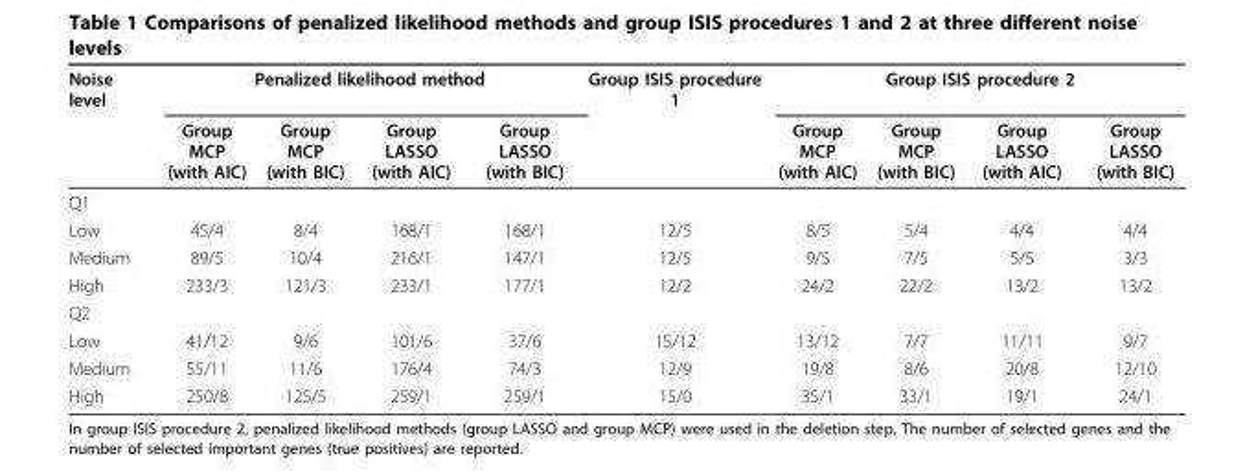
<table><thead><tr><td rowspan="2">Noise level</td><td colspan="4">Penalized likelihood method</td><td rowspan="2">Group ISIS procedure 1</td><td colspan="4">Group ISIS procedure 2</td></tr><tr><td>Group MCP (with AIC)</td><td>Group MCP (with BIC)</td><td>Group LASSO (with AIC)</td><td>Group LASSO (with BIC)</td><td>Group MCP (with AIC)</td><td>Group MCP (with BIC)</td><td>Group LASSO (with AIC)</td><td>Group LASSO (with BIC)</td></tr></thead><tbody><tr><td colspan="10">Q1</td></tr><tr><td>Low</td><td>45/4</td><td>8/4</td><td>168/1</td><td>168/1</td><td>12/5</td><td>8/5</td><td>5/4</td><td>4/4</td><td>4/4</td></tr><tr><td>Medium</td><td>89/5</td><td>10/4</td><td>216/1</td><td>147/1</td><td>12/5</td><td>9/5</td><td>7/5</td><td>5/5</td><td>3/3</td></tr><tr><td>High</td><td>233/3</td><td>121/3</td><td>233/1</td><td>177/1</td><td>12/2</td><td>24/2</td><td>22/2</td><td>13/2</td><td>13/2</td></tr><tr><td colspan="10">Q2</td></tr><tr><td>Low</td><td>41/12</td><td>9/6</td><td>101/6</td><td>37/6</td><td>15/12</td><td>13/12</td><td>7/7</td><td>11/11</td><td>9/7</td></tr><tr><td>Medium</td><td>55/11</td><td>11/6</td><td>176/4</td><td>74/3</td><td>12/9</td><td>19/8</td><td>8/6</td><td>20/8</td><td>12/10</td></tr><tr><td>High</td><td>250/8</td><td>125/5</td><td>259/1</td><td>259/1</td><td>15/0</td><td>35/1</td><td>33/1</td><td>19/1</td><td>24/1</td></tr></tbody></table>